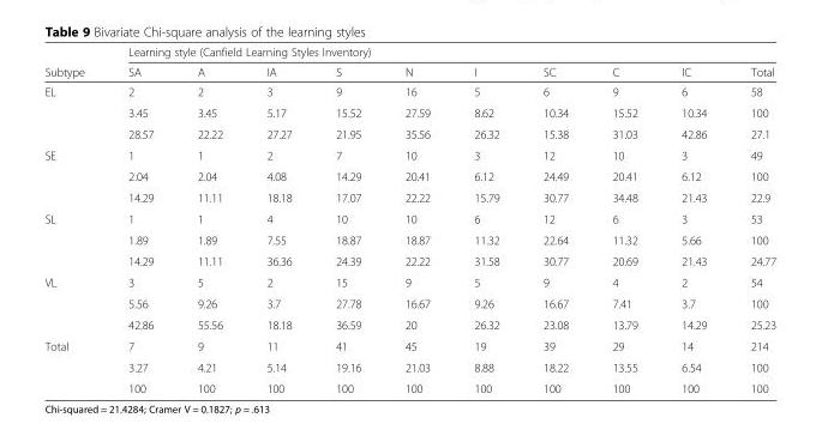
<table><thead><tr><td rowspan="2">Subtype</td><td colspan="10">Learning style (Canfield Learning Styles Inventory)</td></tr><tr><td>SA</td><td>A</td><td>IA</td><td>S</td><td>N</td><td>I</td><td>SC</td><td>C</td><td>IC</td><td>Total</td></tr></thead><tbody><tr><td rowspan="3">EL</td><td>2</td><td>2</td><td>3</td><td>9</td><td>16</td><td>5</td><td>6</td><td>9</td><td>6</td><td>58</td></tr><tr><td>3.45</td><td>3.45</td><td>5.17</td><td>15.52</td><td>27.59</td><td>8.62</td><td>10.34</td><td>15.52</td><td>10.34</td><td>100</td></tr><tr><td>28.57</td><td>22.22</td><td>27.27</td><td>21.95</td><td>35.56</td><td>26.32</td><td>15.38</td><td>31.03</td><td>42.86</td><td>27.1</td></tr><tr><td rowspan="3">SE</td><td>1</td><td>1</td><td>2</td><td>7</td><td>10</td><td>3</td><td>12</td><td>10</td><td>3</td><td>49</td></tr><tr><td>2.04</td><td>2.04</td><td>4.08</td><td>14.29</td><td>20.41</td><td>6.12</td><td>24.49</td><td>20.41</td><td>6.12</td><td>100</td></tr><tr><td>14.29</td><td>11.11</td><td>18.18</td><td>17.07</td><td>22.22</td><td>15.79</td><td>30.77</td><td>34.48</td><td>21.43</td><td>22.9</td></tr><tr><td rowspan="3">SL</td><td>1</td><td>1</td><td>4</td><td>10</td><td>10</td><td>6</td><td>12</td><td>6</td><td>3</td><td>53</td></tr><tr><td>1.89</td><td>1.89</td><td>7.55</td><td>18.87</td><td>18.87</td><td>11.32</td><td>22.64</td><td>11.32</td><td>5.66</td><td>100</td></tr><tr><td>14.29</td><td>11.11</td><td>36.36</td><td>24.39</td><td>22.22</td><td>31.58</td><td>30.77</td><td>20.69</td><td>21.43</td><td>24.77</td></tr><tr><td rowspan="3">VL</td><td>3</td><td>5</td><td>2</td><td>15</td><td>9</td><td>5</td><td>9</td><td>4</td><td>2</td><td>54</td></tr><tr><td>5.56</td><td>9.26</td><td>3.7</td><td>27.78</td><td>16.67</td><td>9.26</td><td>16.67</td><td>7.41</td><td>3.7</td><td>100</td></tr><tr><td>42.86</td><td>55.56</td><td>18.18</td><td>36.59</td><td>20</td><td>26.32</td><td>23.08</td><td>13.79</td><td>14.29</td><td>25.23</td></tr><tr><td rowspan="3">Total</td><td>7</td><td>9</td><td>11</td><td>41</td><td>45</td><td>19</td><td>39</td><td>29</td><td>14</td><td>214</td></tr><tr><td>3.27</td><td>4.21</td><td>5.14</td><td>19.16</td><td>21.03</td><td>8.88</td><td>18.22</td><td>13.55</td><td>6.54</td><td>100</td></tr><tr><td>100</td><td>100</td><td>100</td><td>100</td><td>100</td><td>100</td><td>100</td><td>100</td><td>100</td><td>100</td></tr></tbody></table>